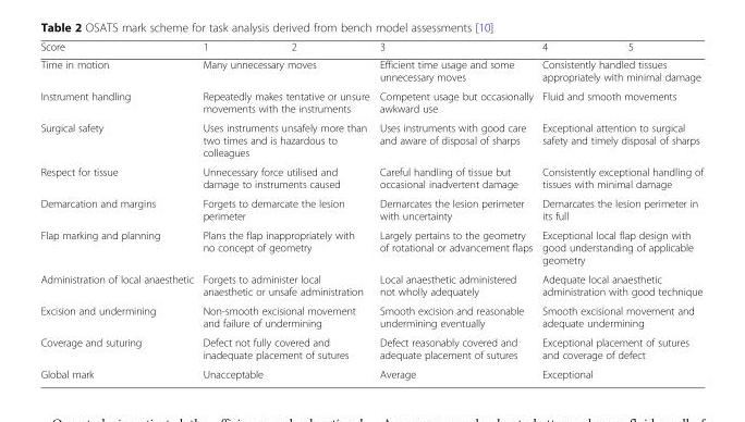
<table><thead><tr><td>Score</td><td>1</td><td>2</td><td>3</td><td>4</td><td>5</td></tr></thead><tbody><tr><td>Time in motion</td><td colspan="2">Many unnecessary moves</td><td>Efficient time usage and some unnecessary moves</td><td colspan="2">Consistently handled tissues appropriately with minimal damage</td></tr><tr><td>Instrument handling</td><td colspan="2">Repeatedly makes tentative or unsure movements with the instruments</td><td>Competent usage but occasionally awkward use</td><td colspan="2">Fluid and smooth movements</td></tr><tr><td>Surgical safety</td><td colspan="2">Uses instruments unsafely more than two times and is hazardous to colleagues</td><td>Uses instruments with good care and aware of disposal of sharps</td><td colspan="2">Exceptional attention to surgical safety and timely disposal of sharps</td></tr><tr><td>Respect for tissue</td><td colspan="2">Unnecessary force utilised and damage to instruments caused</td><td>Careful handling of tissue but occasional inadvertent damage</td><td colspan="2">Consistently exceptional handling of tissues with minimal damage</td></tr><tr><td>Demarcation and margins</td><td colspan="2">Forgets to demarcate the lesion perimeter</td><td>Demarcates the lesion perimeter with uncertainty</td><td colspan="2">Demarcates the lesion perimeter in its full</td></tr><tr><td>Flap marking and planning</td><td colspan="2">Plans the flap inappropriately with no concept of geometry</td><td>Largely pertains to the geometry of rotational or advancement flaps</td><td colspan="2">Exceptional local flap design with good understanding of applicable geometry</td></tr><tr><td>Administration of local anaesthetic</td><td colspan="2">Forgets to administer local anaesthetic or unsafe administration</td><td>Local anaesthetic administered not wholly adequately</td><td colspan="2">Adequate local anaesthetic administration with good technique</td></tr><tr><td>Excision and undermining</td><td colspan="2">Non-smooth excisional movement and failure of undermining</td><td>Smooth excision and reasonable undermining eventually</td><td colspan="2">Smooth excisional movement and adequate undermining</td></tr><tr><td>Coverage and suturing</td><td colspan="2">Defect not fully covered and inadequate placement of sutures</td><td>Defect reasonably covered and adequate placement of sutures</td><td colspan="2">Exceptional placement of sutures and coverage of defect</td></tr><tr><td>Global mark</td><td colspan="2">Unacceptable</td><td>Average</td><td colspan="2">Exceptional</td></tr></tbody></table>